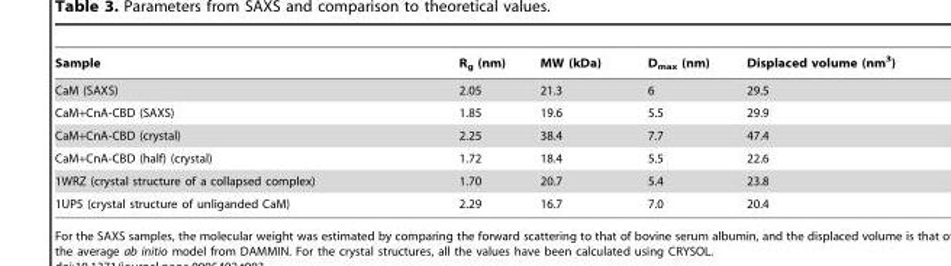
<table><thead><tr><td>Sample</td><td>R<sub>g</sub> (nm)</td><td>MW (kDa)</td><td>D<sub>max</sub> (nm)</td><td>Displaced volume (nm<sup>3</sup>)</td></tr></thead><tbody><tr><td>CaM (SAXS)</td><td>2.05</td><td>21.3</td><td>6</td><td>29.5</td></tr><tr><td>CaM+CnA-CBD (SAXS)</td><td>1.85</td><td>19.6</td><td>5.5</td><td>29.9</td></tr><tr><td>CaM+CnA-CBD (crystal)</td><td>2.25</td><td>38.4</td><td>7.7</td><td>47.4</td></tr><tr><td>CaM+CnA-CBD (half) (crystal)</td><td>1.72</td><td>18.4</td><td>5.5</td><td>22.6</td></tr><tr><td>1WRZ (crystal structure of a collapsed complex)</td><td>1.70</td><td>20.7</td><td>5.4</td><td>23.8</td></tr><tr><td>1UP5 (crystal structure of unliganded CaM)</td><td>2.29</td><td>16.7</td><td>7.0</td><td>20.4</td></tr></tbody></table>